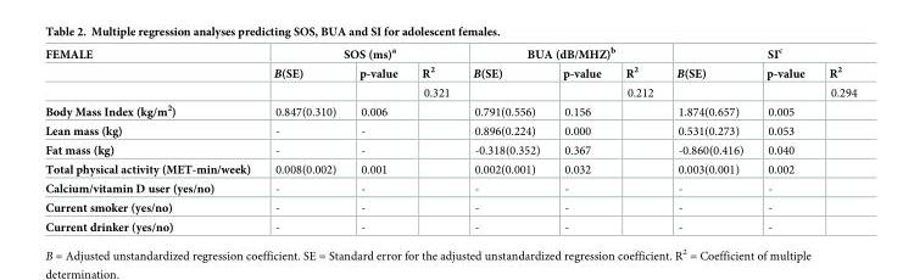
<table><thead><tr><td rowspan="2">FEMALE</td><td colspan="3">SOS (ms)<sup>a</sup></td><td colspan="3">BUA (dB/MHZ)<sup>b</sup></td><td colspan="3">SI<sup>c</sup></td></tr><tr><td>B(SE)</td><td>p-value</td><td>R<sup>2</sup></td><td>B(SE)</td><td>p-value</td><td>R<sup>2</sup></td><td>B(SE)</td><td>p-value</td><td>R<sup>2</sup></td></tr></thead><tbody><tr><td></td><td></td><td></td><td>0.321</td><td></td><td></td><td>0.212</td><td></td><td></td><td>0.294</td></tr><tr><td>Body Mass Index (kg/m<sup>2</sup>)</td><td>0.847(0.310)</td><td>0.006</td><td></td><td>0.791(0.556)</td><td>0.156</td><td></td><td>1.874(0.657)</td><td>0.005</td><td></td></tr><tr><td>Lean mass (kg)</td><td>-</td><td>-</td><td></td><td>0.896(0.224)</td><td>0.000</td><td></td><td>0.531(0.273)</td><td>0.053</td><td></td></tr><tr><td>Fat mass (kg)</td><td>-</td><td>-</td><td></td><td>-0.318(0.352)</td><td>0.367</td><td></td><td>-0.860(0.416)</td><td>0.040</td><td></td></tr><tr><td>Total physical activity (MET-min/week)</td><td>0.008(0.002)</td><td>0.001</td><td></td><td>0.002(0.001)</td><td>0.032</td><td></td><td>0.003(0.001)</td><td>0.002</td><td></td></tr><tr><td>Calcium/vitamin D user (yes/no)</td><td>-</td><td>-</td><td></td><td>-</td><td>-</td><td></td><td>-</td><td>-</td><td></td></tr><tr><td>Current smoker (yes/no)</td><td>-</td><td>-</td><td></td><td>-</td><td>-</td><td></td><td>-</td><td>-</td><td></td></tr><tr><td>Current drinker (yes/no)</td><td>-</td><td>-</td><td></td><td>-</td><td>-</td><td></td><td>-</td><td>-</td><td></td></tr></tbody></table>